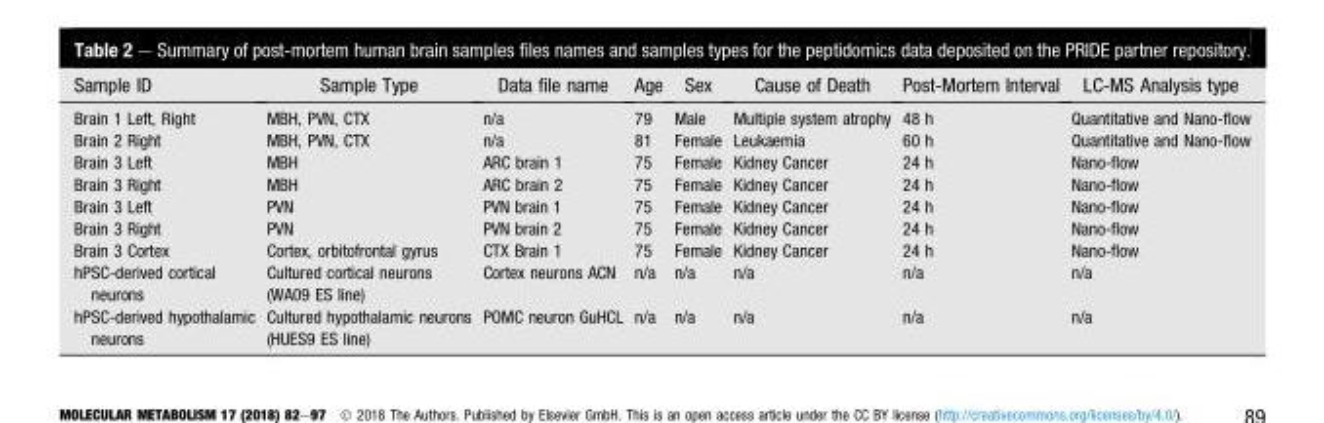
<table><thead><tr><td>Sample ID</td><td>Sample Type</td><td>Data file name</td><td>Age</td><td>Sex</td><td>Cause of Death</td><td>Post-Mortem Interval</td><td>LC-MS Analysis type</td></tr></thead><tbody><tr><td>Brain 1 Left, Right</td><td>MBH, PVN, CTX</td><td>n/a</td><td>79</td><td>Male</td><td>Multiple system atrophy</td><td>48 h</td><td>Quantitative and Nano-flow</td></tr><tr><td>Brain 2 Right</td><td>MBH, PVN, CTX</td><td>n/a</td><td>81</td><td>Female</td><td>Leukaemia</td><td>60 h</td><td>Quantitative and Nano-flow</td></tr><tr><td>Brain 3 Left</td><td>MBH</td><td>ARC brain 1</td><td>75</td><td>Female</td><td>Kidney Cancer</td><td>24 h</td><td>Nano-flow</td></tr><tr><td>Brain 3 Right</td><td>MBH</td><td>ARC brain 2</td><td>75</td><td>Female</td><td>Kidney Cancer</td><td>24 h</td><td>Nano-flow</td></tr><tr><td>Brain 3 Left</td><td>PVN</td><td>PVN brain 1</td><td>75</td><td>Female</td><td>Kidney Cancer</td><td>24 h</td><td>Nano-flow</td></tr><tr><td>Brain 3 Right</td><td>PVN</td><td>PVN brain 2</td><td>75</td><td>Female</td><td>Kidney Cancer</td><td>24 h</td><td>Nano-flow</td></tr><tr><td>Brain 3 Cortex</td><td>Cortex, orbitofrontal gyrus</td><td>CTX Brain 1</td><td>75</td><td>Female</td><td>Kidney Cancer</td><td>24 h</td><td>Nano-flow</td></tr><tr><td>hPSC-derived cortical neurons</td><td>Cultured cortical neurons (WA09 ES line)</td><td>Cortex neurons ACN</td><td>n/a</td><td>n/a</td><td>n/a</td><td>n/a</td><td>n/a</td></tr><tr><td>hPSC-derived hypothalamic neurons</td><td>Cultured hypothalamic neurons (HUES9 ES line)</td><td>POMC neuron GuHCL</td><td>n/a</td><td>n/a</td><td>n/a</td><td>n/a</td><td>n/a</td></tr></tbody></table>